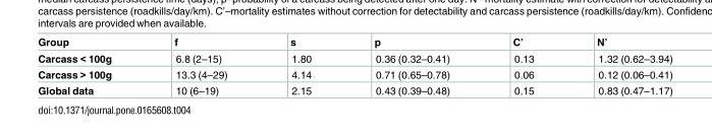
<table><thead><tr><td>Group</td><td>f</td><td>s</td><td>p</td><td>C’</td><td>N’</td></tr></thead><tbody><tr><td>Carcass &lt; 100g</td><td>6.8 (2–15)</td><td>1.80</td><td>0.36 (0.32–0.41)</td><td>0.13</td><td>1.32 (0.62–3.94)</td></tr><tr><td>Carcass &gt; 100g</td><td>13.3 (4–29)</td><td>4.14</td><td>0.71 (0.65–0.78)</td><td>0.06</td><td>0.12 (0.06–0.41)</td></tr><tr><td>Global data</td><td>10 (6–19)</td><td>2.15</td><td>0.43 (0.39–0.48)</td><td>0.15</td><td>0.83 (0.47–1.17)</td></tr></tbody></table>